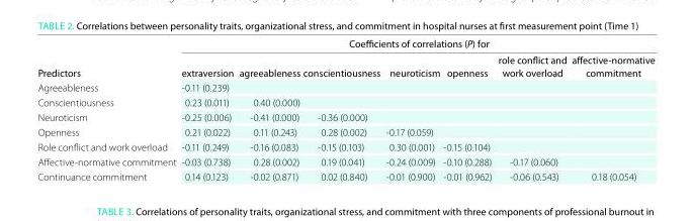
<table><thead><tr><td rowspan="2">Predictors</td><td colspan="7">Coefficients of correlations (P) for</td></tr><tr><td>extraversion</td><td>agreeableness</td><td>conscientiousness</td><td>neuroticism</td><td>openness</td><td>role conflict and work overload</td><td>affective-normative commitment</td></tr></thead><tbody><tr><td>Agreeableness</td><td>-0.11 (0.239)</td><td></td><td></td><td></td><td></td><td></td><td></td></tr><tr><td>Conscientiousness</td><td>0.23 (0.011)</td><td>0.40 (0.000)</td><td></td><td></td><td></td><td></td><td></td></tr><tr><td>Neuroticism</td><td>-0.25 (0.006)</td><td>-0.41 (0.000)</td><td>-0.36 (0.000)</td><td></td><td></td><td></td><td></td></tr><tr><td>Openness</td><td>0.21 (0.022)</td><td>0.11 (0.243)</td><td>0.28 (0.002)</td><td>-0.17 (0.059)</td><td></td><td></td><td></td></tr><tr><td>Role conflict and work overload</td><td>-0.11 (0.249)</td><td>-0.16 (0.083)</td><td>-0.15 (0.103)</td><td>0.30 (0.001)</td><td>-0.15 (0.104)</td><td></td><td></td></tr><tr><td>Affective-normative commitment</td><td>-0.03 (0.738)</td><td>0.28 (0.002)</td><td>0.19 (0.041)</td><td>-0.24 (0.009)</td><td>-0.10 (0.288)</td><td>-0.17 (0.060)</td><td></td></tr><tr><td>Continuance commitment</td><td>0.14 (0.123)</td><td>-0.02 (0.871)</td><td>0.02 (0.840)</td><td>-0.01 (0.900)</td><td>-0.01 (0.962)</td><td>-0.06 (0.543)</td><td>0.18 (0.054)</td></tr></tbody></table>